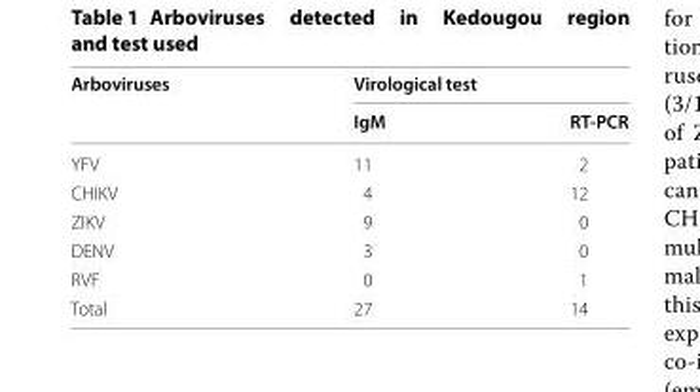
<table><thead><tr><td rowspan="2">Arboviruses</td><td colspan="2">Virological test</td></tr><tr><td>IgM</td><td>RT‑PCR</td></tr></thead><tbody><tr><td>YFV</td><td>11</td><td>2</td></tr><tr><td>CHIKV</td><td>4</td><td>12</td></tr><tr><td>ZIKV</td><td>9</td><td>0</td></tr><tr><td>DENV</td><td>3</td><td>0</td></tr><tr><td>RVF</td><td>0</td><td>1</td></tr><tr><td>Total</td><td>27</td><td>14</td></tr></tbody></table>